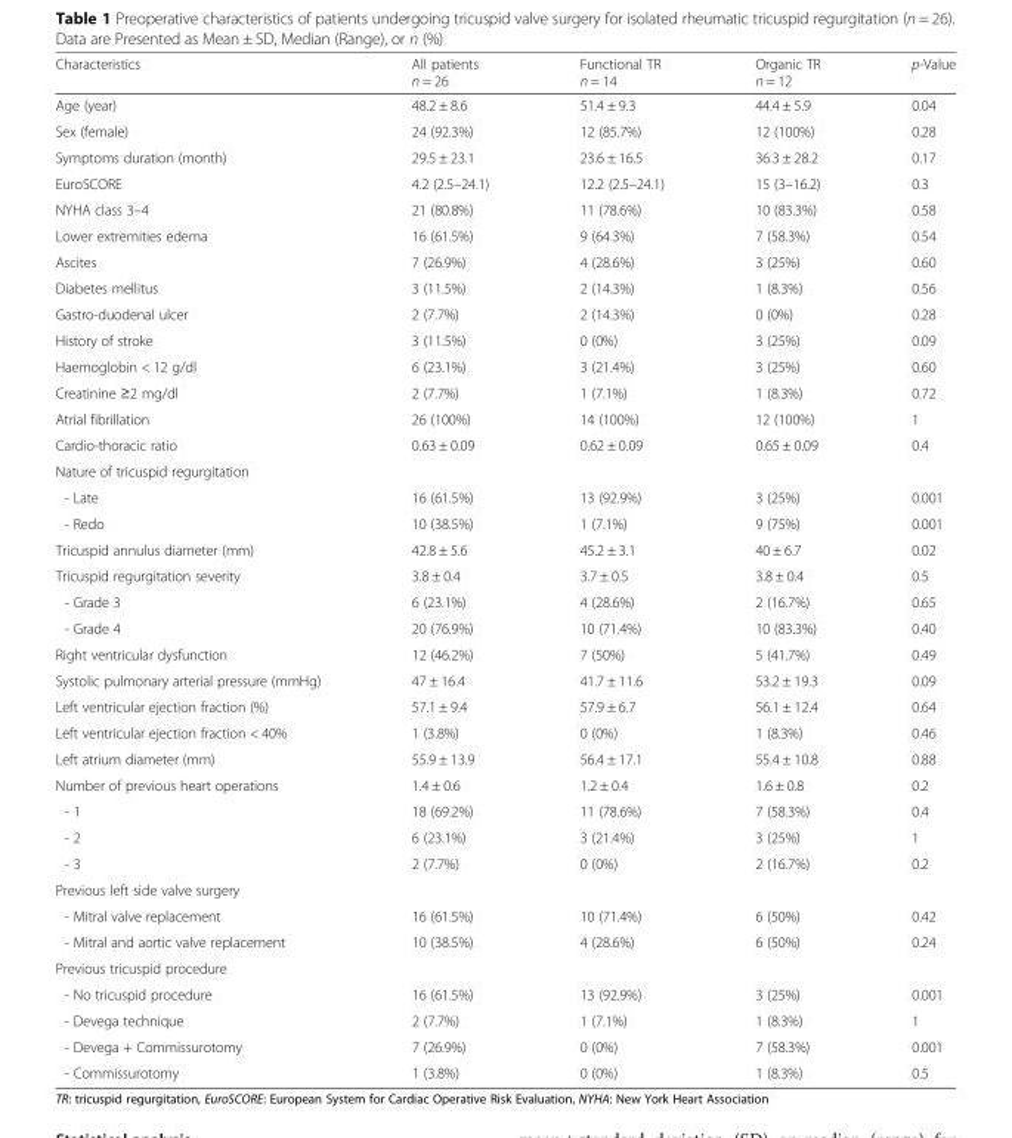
<table><thead><tr><td>Characteristics</td><td>All patients n = 26</td><td>Functional TR n = 14</td><td>Organic TR n = 12</td><td>p-Value</td></tr></thead><tbody><tr><td>Age (year)</td><td>48.2 ± 8.6</td><td>51.4 ± 9.3</td><td>44.4 ± 5.9</td><td>0.04</td></tr><tr><td>Sex (female)</td><td>24 (92.3%)</td><td>12 (85.7%)</td><td>12 (100%)</td><td>0.28</td></tr><tr><td>Symptoms duration (month)</td><td>29.5 ± 23.1</td><td>23.6 ± 16.5</td><td>36.3 ± 28.2</td><td>0.17</td></tr><tr><td>EuroSCORE</td><td>4.2 (2.5–24.1)</td><td>12.2 (2.5–24.1)</td><td>15 (3–16.2)</td><td>0.3</td></tr><tr><td>NYHA class 3–4</td><td>21 (80.8%)</td><td>11 (78.6%)</td><td>10 (83.3%)</td><td>0.58</td></tr><tr><td>Lower extremities edema</td><td>16 (61.5%)</td><td>9 (64.3%)</td><td>7 (58.3%)</td><td>0.54</td></tr><tr><td>Ascites</td><td>7 (26.9%)</td><td>4 (28.6%)</td><td>3 (25%)</td><td>0.60</td></tr><tr><td>Diabetes mellitus</td><td>3 (11.5%)</td><td>2 (14.3%)</td><td>1 (8.3%)</td><td>0.56</td></tr><tr><td>Gastro-duodenal ulcer</td><td>2 (7.7%)</td><td>2 (14.3%)</td><td>0 (0%)</td><td>0.28</td></tr><tr><td>History of stroke</td><td>3 (11.5%)</td><td>0 (0%)</td><td>3 (25%)</td><td>0.09</td></tr><tr><td>Haemoglobin &lt; 12 g/dl</td><td>6 (23.1%)</td><td>3 (21.4%)</td><td>3 (25%)</td><td>0.60</td></tr><tr><td>Creatinine ≥2 mg/dl</td><td>2 (7.7%)</td><td>1 (7.1%)</td><td>1 (8.3%)</td><td>0.72</td></tr><tr><td>Atrial fibrillation</td><td>26 (100%)</td><td>14 (100%)</td><td>12 (100%)</td><td>1</td></tr><tr><td>Cardio-thoracic ratio</td><td>0.63 ± 0.09</td><td>0.62 ± 0.09</td><td>0.65 ± 0.09</td><td>0.4</td></tr><tr><td colspan="5">Nature of tricuspid regurgitation</td></tr><tr><td>- Late</td><td>16 (61.5%)</td><td>13 (92.9%)</td><td>3 (25%)</td><td>0.001</td></tr><tr><td>- Redo</td><td>10 (38.5%)</td><td>1 (7.1%)</td><td>9 (75%)</td><td>0.001</td></tr><tr><td>Tricuspid annulus diameter (mm)</td><td>42.8 ± 5.6</td><td>45.2 ± 3.1</td><td>40 ± 6.7</td><td>0.02</td></tr><tr><td>Tricuspid regurgitation severity</td><td>3.8 ± 0.4</td><td>3.7 ± 0.5</td><td>3.8 ± 0.4</td><td>0.5</td></tr><tr><td>- Grade 3</td><td>6 (23.1%)</td><td>4 (28.6%)</td><td>2 (16.7%)</td><td>0.65</td></tr><tr><td>- Grade 4</td><td>20 (76.9%)</td><td>10 (71.4%)</td><td>10 (83.3%)</td><td>0.40</td></tr><tr><td>Right ventricular dysfunction</td><td>12 (46.2%)</td><td>7 (50%)</td><td>5 (41.7%)</td><td>0.49</td></tr><tr><td>Systolic pulmonary arterial pressure (mmHg)</td><td>47 ± 16.4</td><td>41.7 ± 11.6</td><td>53.2 ± 19.3</td><td>0.09</td></tr><tr><td>Left ventricular ejection fraction (%)</td><td>57.1 ± 9.4</td><td>57.9 ± 6.7</td><td>56.1 ± 12.4</td><td>0.64</td></tr><tr><td>Left ventricular ejection fraction &lt; 40%</td><td>1 (3.8%)</td><td>0 (0%)</td><td>1 (8.3%)</td><td>0.46</td></tr><tr><td>Left atrium diameter (mm)</td><td>55.9 ± 13.9</td><td>56.4 ± 17.1</td><td>55.4 ± 10.8</td><td>0.88</td></tr><tr><td>Number of previous heart operations</td><td>1.4 ± 0.6</td><td>1.2 ± 0.4</td><td>1.6 ± 0.8</td><td>0.2</td></tr><tr><td>- 1</td><td>18 (69.2%)</td><td>11 (78.6%)</td><td>7 (58.3%)</td><td>0.4</td></tr><tr><td>- 2</td><td>6 (23.1%)</td><td>3 (21.4%)</td><td>3 (25%)</td><td>1</td></tr><tr><td>- 3</td><td>2 (7.7%)</td><td>0 (0%)</td><td>2 (16.7%)</td><td>0.2</td></tr><tr><td colspan="5">Previous left side valve surgery</td></tr><tr><td>- Mitral valve replacement</td><td>16 (61.5%)</td><td>10 (71.4%)</td><td>6 (50%)</td><td>0.42</td></tr><tr><td>- Mitral and aortic valve replacement</td><td>10 (38.5%)</td><td>4 (28.6%)</td><td>6 (50%)</td><td>0.24</td></tr><tr><td colspan="5">Previous tricuspid procedure</td></tr><tr><td>- No tricuspid procedure</td><td>16 (61.5%)</td><td>13 (92.9%)</td><td>3 (25%)</td><td>0.001</td></tr><tr><td>- Devega technique</td><td>2 (7.7%)</td><td>1 (7.1%)</td><td>1 (8.3%)</td><td>1</td></tr><tr><td>- Devega + Commissurotomy</td><td>7 (26.9%)</td><td>0 (0%)</td><td>7 (58.3%)</td><td>0.001</td></tr><tr><td>- Commissurotomy</td><td>1 (3.8%)</td><td>0 (0%)</td><td>1 (8.3%)</td><td>0.5</td></tr></tbody></table>